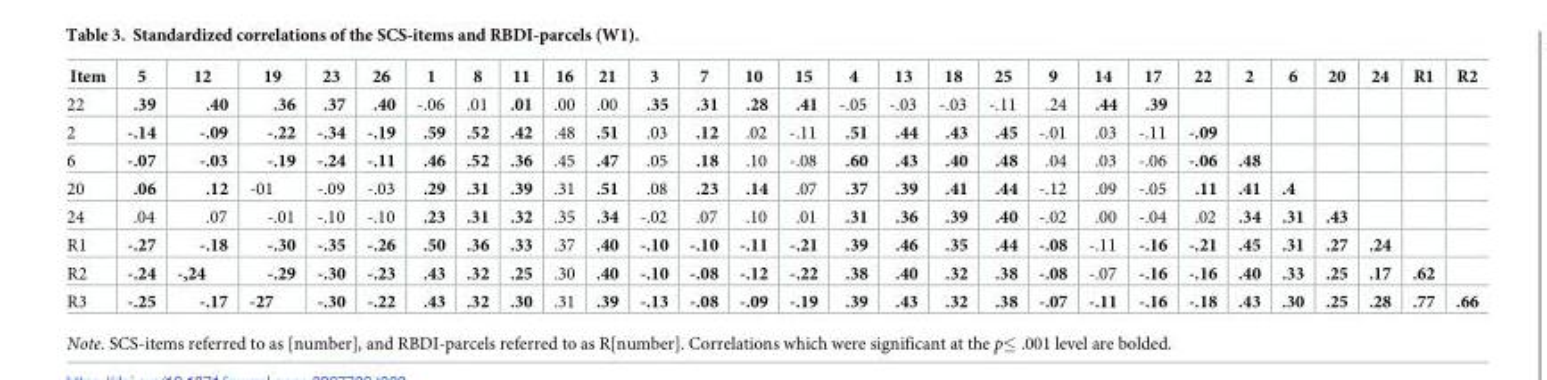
<table><thead><tr><td>Item</td><td>5</td><td>12</td><td>19</td><td>23</td><td>26</td><td>1</td><td>8</td><td>11</td><td>16</td><td>21</td><td>3</td><td>7</td><td>10</td><td>15</td><td>4</td><td>13</td><td>18</td><td>25</td><td>9</td><td>14</td><td>17</td><td>22</td><td>2</td><td>6</td><td>20</td><td>24</td><td>R1</td><td>R2</td></tr></thead><tbody><tr><td>22</td><td>.39</td><td>.40</td><td>.36</td><td>.37</td><td>.40</td><td>-.06</td><td>.01</td><td>.01</td><td>.00</td><td>.00</td><td>.35</td><td>.31</td><td>.28</td><td>.41</td><td>-.05</td><td>-.03</td><td>-.03</td><td>-.11</td><td>.24</td><td>.44</td><td>.39</td><td></td><td></td><td></td><td></td><td></td><td></td><td></td></tr><tr><td>2</td><td>-.14</td><td>-.09</td><td>-.22</td><td>-.34</td><td>-.19</td><td>.59</td><td>.52</td><td>.42</td><td>.48</td><td>.51</td><td>.03</td><td>.12</td><td>.02</td><td>-.11</td><td>.51</td><td>.44</td><td>.43</td><td>.45</td><td>-.01</td><td>.03</td><td>-.11</td><td>-.09</td><td></td><td></td><td></td><td></td><td></td><td></td></tr><tr><td>6</td><td>-.07</td><td>-.03</td><td>-.19</td><td>-.24</td><td>-.11</td><td>.46</td><td>.52</td><td>.36</td><td>.45</td><td>.47</td><td>.05</td><td>.18</td><td>.10</td><td>-.08</td><td>.60</td><td>.43</td><td>.40</td><td>.48</td><td>.04</td><td>.03</td><td>-.06</td><td>-.06</td><td>.48</td><td></td><td></td><td></td><td></td><td></td></tr><tr><td>20</td><td>.06</td><td>.12</td><td>-01</td><td>-.09</td><td>-.03</td><td>.29</td><td>.31</td><td>.39</td><td>.31</td><td>.51</td><td>.08</td><td>.23</td><td>.14</td><td>.07</td><td>.37</td><td>.39</td><td>.41</td><td>.44</td><td>-.12</td><td>.09</td><td>-.05</td><td>.11</td><td>.41</td><td>.4</td><td></td><td></td><td></td><td></td></tr><tr><td>24</td><td>.04</td><td>.07</td><td>-.01</td><td>-.10</td><td>-.10</td><td>.23</td><td>.31</td><td>.32</td><td>.35</td><td>.34</td><td>-.02</td><td>.07</td><td>.10</td><td>.01</td><td>.31</td><td>.36</td><td>.39</td><td>.40</td><td>-.02</td><td>.00</td><td>-.04</td><td>.02</td><td>.34</td><td>.31</td><td>.43</td><td></td><td></td><td></td></tr><tr><td>R1</td><td>-.27</td><td>-.18</td><td>-.30</td><td>-.35</td><td>-.26</td><td>.50</td><td>.36</td><td>.33</td><td>.37</td><td>.40</td><td>-.10</td><td>-.10</td><td>-.11</td><td>-.21</td><td>.39</td><td>.46</td><td>.35</td><td>.44</td><td>-.08</td><td>-.11</td><td>-.16</td><td>-.21</td><td>.45</td><td>.31</td><td>.27</td><td>.24</td><td></td><td></td></tr><tr><td>R2</td><td>-.24</td><td>-,24</td><td>-.29</td><td>-.30</td><td>-.23</td><td>.43</td><td>.32</td><td>.25</td><td>.30</td><td>.40</td><td>-.10</td><td>-.08</td><td>-.12</td><td>-.22</td><td>.38</td><td>.40</td><td>.32</td><td>.38</td><td>-.08</td><td>-.07</td><td>-.16</td><td>-.16</td><td>.40</td><td>.33</td><td>.25</td><td>.17</td><td>.62</td><td></td></tr><tr><td>R3</td><td>-.25</td><td>-.17</td><td>-27</td><td>-.30</td><td>-.22</td><td>.43</td><td>.32</td><td>.30</td><td>.31</td><td>.39</td><td>-.13</td><td>-.08</td><td>-.09</td><td>-.19</td><td>.39</td><td>.43</td><td>.32</td><td>.38</td><td>-.07</td><td>-.11</td><td>-.16</td><td>-.18</td><td>.43</td><td>.30</td><td>.25</td><td>.28</td><td>.77</td><td>.66</td></tr></tbody></table>